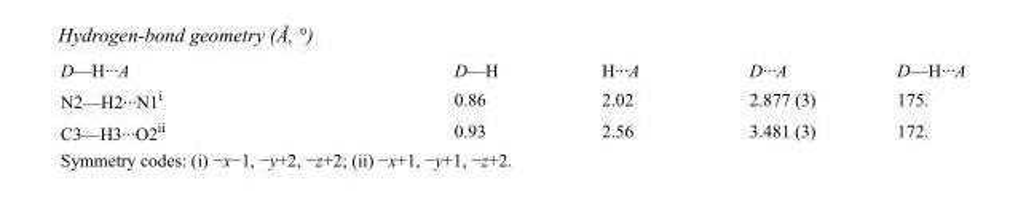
<table><tbody><tr><td>D—H···A</td><td>D—H</td><td>H···A</td><td>D···A</td><td>D—H···A</td></tr><tr><td>N2—H2···N1<sup>i</sup></td><td>0.86</td><td>2.02</td><td>2.877 (3)</td><td>175.</td></tr><tr><td>C3—H3···O2<sup>ii</sup></td><td>0.93</td><td>2.56</td><td>3.481 (3)</td><td>172.</td></tr></tbody></table>